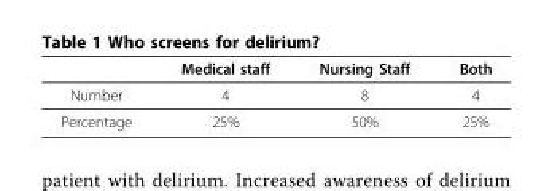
<table><thead><tr><td></td><td>Medical staff</td><td>Nursing Staff</td><td>Both</td></tr></thead><tbody><tr><td>Number</td><td>4</td><td>8</td><td>4</td></tr><tr><td>Percentage</td><td>25%</td><td>50%</td><td>25%</td></tr></tbody></table>